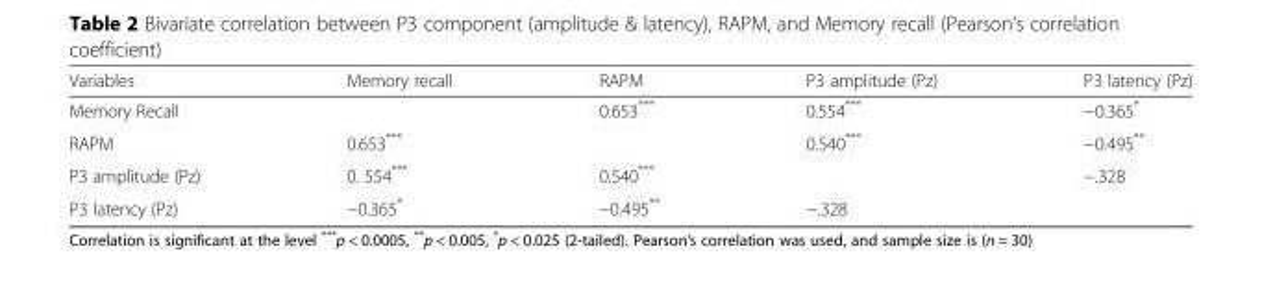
<table><thead><tr><td>Variables</td><td>Memory recall</td><td>RAPM</td><td>P3 amplitude (Pz)</td><td>P3 latency (Pz)</td></tr></thead><tbody><tr><td>Memory Recall</td><td></td><td>0.653***</td><td>0.554***</td><td>−0.365*</td></tr><tr><td>RAPM</td><td>0.653***</td><td></td><td>0.540***</td><td>−0.495**</td></tr><tr><td>P3 amplitude (Pz)</td><td>0. 554***</td><td>0.540***</td><td></td><td>−.328</td></tr><tr><td>P3 latency (Pz)</td><td>−0.365*</td><td>−0.495**</td><td>−.328</td><td></td></tr></tbody></table>